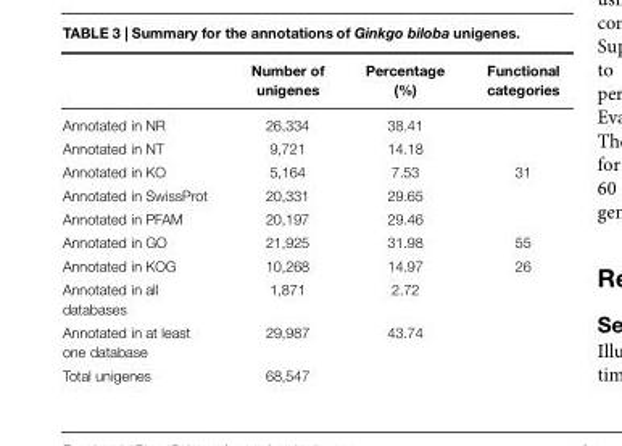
<table><thead><tr><td></td><td>Number of unigenes</td><td>Percentage (%)</td><td>Functional categories</td></tr></thead><tbody><tr><td>Annotated in NR</td><td>26,334</td><td>38.41</td><td></td></tr><tr><td>Annotated in NT</td><td>9,721</td><td>14.18</td><td></td></tr><tr><td>Annotated in KO</td><td>5,164</td><td>7.53</td><td>31</td></tr><tr><td>Annotated in SwissProt</td><td>20,331</td><td>29.65</td><td></td></tr><tr><td>Annotated in PFAM</td><td>20,197</td><td>29.46</td><td></td></tr><tr><td>Annotated in GO</td><td>21,925</td><td>31.98</td><td>55</td></tr><tr><td>Annotated in KOG</td><td>10,268</td><td>14.97</td><td>26</td></tr><tr><td>Annotated in all databases</td><td>1,871</td><td>2.72</td><td></td></tr><tr><td>Annotated in at least one database</td><td>29,987</td><td>43.74</td><td></td></tr><tr><td>Total unigenes</td><td>68,547</td><td></td><td></td></tr></tbody></table>